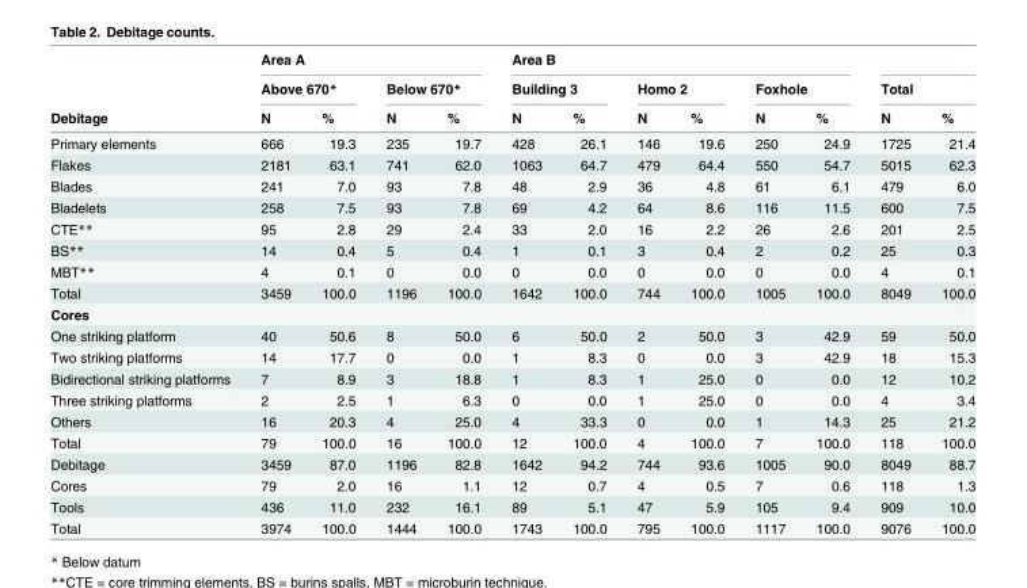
<table><thead><tr><td rowspan="3">Debitage</td><td colspan="4">Area A</td><td colspan="6">Area B</td><td></td><td></td></tr><tr><td colspan="2">Above 670*</td><td colspan="2">Below 670*</td><td colspan="2">Building 3</td><td colspan="2">Homo 2</td><td colspan="2">Foxhole</td><td colspan="2">Total</td></tr><tr><td>N</td><td>%</td><td>N</td><td>%</td><td>N</td><td>%</td><td>N</td><td>%</td><td>N</td><td>%</td><td>N</td><td>%</td></tr></thead><tbody><tr><td>Primary elements</td><td>666</td><td>19.3</td><td>235</td><td>19.7</td><td>428</td><td>26.1</td><td>146</td><td>19.6</td><td>250</td><td>24.9</td><td>1725</td><td>21.4</td></tr><tr><td>Flakes</td><td>2181</td><td>63.1</td><td>741</td><td>62.0</td><td>1063</td><td>64.7</td><td>479</td><td>64.4</td><td>550</td><td>54.7</td><td>5015</td><td>62.3</td></tr><tr><td>Blades</td><td>241</td><td>7.0</td><td>93</td><td>7.8</td><td>48</td><td>2.9</td><td>36</td><td>4.8</td><td>61</td><td>6.1</td><td>479</td><td>6.0</td></tr><tr><td>Bladelets</td><td>258</td><td>7.5</td><td>93</td><td>7.8</td><td>69</td><td>4.2</td><td>64</td><td>8.6</td><td>116</td><td>11.5</td><td>600</td><td>7.5</td></tr><tr><td>CTE**</td><td>95</td><td>2.8</td><td>29</td><td>2.4</td><td>33</td><td>2.0</td><td>16</td><td>2.2</td><td>26</td><td>2.6</td><td>201</td><td>2.5</td></tr><tr><td>BS**</td><td>14</td><td>0.4</td><td>5</td><td>0.4</td><td>1</td><td>0.1</td><td>3</td><td>0.4</td><td>2</td><td>0.2</td><td>25</td><td>0.3</td></tr><tr><td>MBT**</td><td>4</td><td>0.1</td><td>0</td><td>0.0</td><td>0</td><td>0.0</td><td>0</td><td>0.0</td><td>0</td><td>0.0</td><td>4</td><td>0.1</td></tr><tr><td>Total</td><td>3459</td><td>100.0</td><td>1196</td><td>100.0</td><td>1642</td><td>100.0</td><td>744</td><td>100.0</td><td>1005</td><td>100.0</td><td>8049</td><td>100.0</td></tr><tr><td colspan="13">Cores</td></tr><tr><td>One striking platform</td><td>40</td><td>50.6</td><td>8</td><td>50.0</td><td>6</td><td>50.0</td><td>2</td><td>50.0</td><td>3</td><td>42.9</td><td>59</td><td>50.0</td></tr><tr><td>Two striking platforms</td><td>14</td><td>17.7</td><td>0</td><td>0.0</td><td>1</td><td>8.3</td><td>0</td><td>0.0</td><td>3</td><td>42.9</td><td>18</td><td>15.3</td></tr><tr><td>Bidirectional striking platforms</td><td>7</td><td>8.9</td><td>3</td><td>18.8</td><td>1</td><td>8.3</td><td>1</td><td>25.0</td><td>0</td><td>0.0</td><td>12</td><td>10.2</td></tr><tr><td>Three striking platforms</td><td>2</td><td>2.5</td><td>1</td><td>6.3</td><td>0</td><td>0.0</td><td>1</td><td>25.0</td><td>0</td><td>0.0</td><td>4</td><td>3.4</td></tr><tr><td>Others</td><td>16</td><td>20.3</td><td>4</td><td>25.0</td><td>4</td><td>33.3</td><td>0</td><td>0.0</td><td>1</td><td>14.3</td><td>25</td><td>21.2</td></tr><tr><td>Total</td><td>79</td><td>100.0</td><td>16</td><td>100.0</td><td>12</td><td>100.0</td><td>4</td><td>100.0</td><td>7</td><td>100.0</td><td>118</td><td>100.0</td></tr><tr><td>Debitage</td><td>3459</td><td>87.0</td><td>1196</td><td>82.8</td><td>1642</td><td>94.2</td><td>744</td><td>93.6</td><td>1005</td><td>90.0</td><td>8049</td><td>88.7</td></tr><tr><td>Cores</td><td>79</td><td>2.0</td><td>16</td><td>1.1</td><td>12</td><td>0.7</td><td>4</td><td>0.5</td><td>7</td><td>0.6</td><td>118</td><td>1.3</td></tr><tr><td>Tools</td><td>436</td><td>11.0</td><td>232</td><td>16.1</td><td>89</td><td>5.1</td><td>47</td><td>5.9</td><td>105</td><td>9.4</td><td>909</td><td>10.0</td></tr><tr><td>Total</td><td>3974</td><td>100.0</td><td>1444</td><td>100.0</td><td>1743</td><td>100.0</td><td>795</td><td>100.0</td><td>1117</td><td>100.0</td><td>9076</td><td>100.0</td></tr></tbody></table>